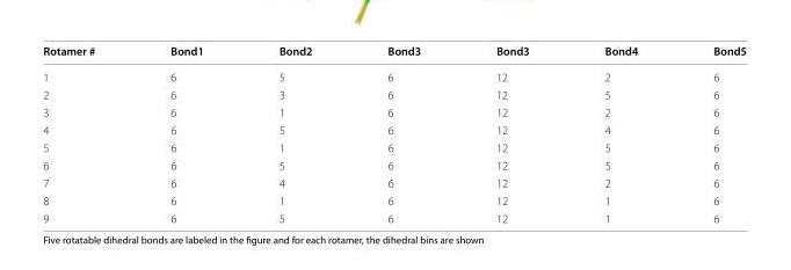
<table><thead><tr><td>Rotamer #</td><td>Bond1</td><td>Bond2</td><td>Bond3</td><td>Bond3</td><td>Bond4</td><td>Bond5</td></tr></thead><tbody><tr><td>1</td><td>6</td><td>5</td><td>6</td><td>12</td><td>2</td><td>6</td></tr><tr><td>2</td><td>6</td><td>3</td><td>6</td><td>12</td><td>5</td><td>6</td></tr><tr><td>3</td><td>6</td><td>1</td><td>6</td><td>12</td><td>2</td><td>6</td></tr><tr><td>4</td><td>6</td><td>5</td><td>6</td><td>12</td><td>4</td><td>6</td></tr><tr><td>5</td><td>6</td><td>1</td><td>6</td><td>12</td><td>5</td><td>6</td></tr><tr><td>6</td><td>6</td><td>5</td><td>6</td><td>12</td><td>5</td><td>6</td></tr><tr><td>7</td><td>6</td><td>4</td><td>6</td><td>12</td><td>2</td><td>6</td></tr><tr><td>8</td><td>6</td><td>1</td><td>6</td><td>12</td><td>1</td><td>6</td></tr><tr><td>9</td><td>6</td><td>5</td><td>6</td><td>12</td><td>1</td><td>6</td></tr></tbody></table>